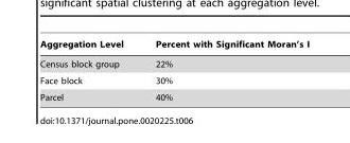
<table><thead><tr><td>Aggregation Level</td><td>Percent with Significant Moran’s I</td></tr></thead><tbody><tr><td>Census block group</td><td>22%</td></tr><tr><td>Face block</td><td>30%</td></tr><tr><td>Parcel</td><td>40%</td></tr></tbody></table>